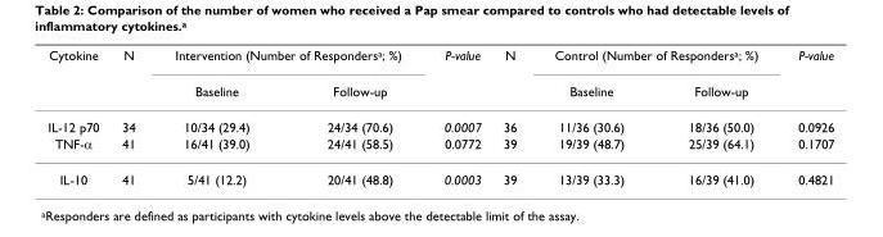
<table><thead><tr><td rowspan="2">Cytokine</td><td rowspan="2">N</td><td colspan="2">Intervention (Number of Responders<sup>a</sup>; %)</td><td rowspan="2">P-value</td><td rowspan="2">N</td><td colspan="2">Control (Number of Responders<sup>a</sup>; %)</td><td rowspan="2">P-value</td></tr><tr><td>Baseline</td><td>Follow-up</td><td>Baseline</td><td>Follow-up</td></tr></thead><tbody><tr><td>IL-12 p70</td><td>34</td><td>10/34 (29.4)</td><td>24/34 (70.6)</td><td>0.0007</td><td>36</td><td>11/36 (30.6)</td><td>18/36 (50.0)</td><td>0.0926</td></tr><tr><td>TNF-α</td><td>41</td><td>16/41 (39.0)</td><td>24/41 (58.5)</td><td>0.0772</td><td>39</td><td>19/39 (48.7)</td><td>25/39 (64.1)</td><td>0.1707</td></tr><tr><td>IL-10</td><td>41</td><td>5/41 (12.2)</td><td>20/41 (48.8)</td><td>0.0003</td><td>39</td><td>13/39 (33.3)</td><td>16/39 (41.0)</td><td>0.4821</td></tr></tbody></table>